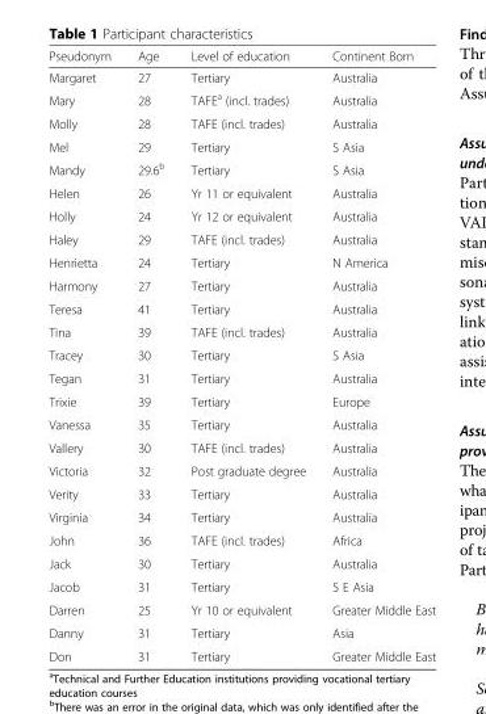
<table><thead><tr><td>Pseudonym</td><td>Age</td><td>Level of education</td><td>Continent Born</td></tr></thead><tbody><tr><td>Margaret</td><td>27</td><td>Tertiary</td><td>Australia</td></tr><tr><td>Mary</td><td>28</td><td>TAFE<sup>a</sup> (incl. trades)</td><td>Australia</td></tr><tr><td>Molly</td><td>28</td><td>TAFE (incl. trades)</td><td>Australia</td></tr><tr><td>Mel</td><td>29</td><td>Tertiary</td><td>S Asia</td></tr><tr><td>Mandy</td><td>29.6<sup>b</sup></td><td>Tertiary</td><td>S Asia</td></tr><tr><td>Helen</td><td>26</td><td>Yr 11 or equivalent</td><td>Australia</td></tr><tr><td>Holly</td><td>24</td><td>Yr 12 or equivalent</td><td>Australia</td></tr><tr><td>Haley</td><td>29</td><td>TAFE (incl. trades)</td><td>Australia</td></tr><tr><td>Henrietta</td><td>24</td><td>Tertiary</td><td>N America</td></tr><tr><td>Harmony</td><td>27</td><td>Tertiary</td><td>Australia</td></tr><tr><td>Teresa</td><td>41</td><td>Tertiary</td><td>Australia</td></tr><tr><td>Tina</td><td>39</td><td>TAFE (incl. trades)</td><td>Australia</td></tr><tr><td>Tracey</td><td>30</td><td>Tertiary</td><td>S Asia</td></tr><tr><td>Tegan</td><td>31</td><td>Tertiary</td><td>Australia</td></tr><tr><td>Trixie</td><td>39</td><td>Tertiary</td><td>Europe</td></tr><tr><td>Vanessa</td><td>35</td><td>Tertiary</td><td>Australia</td></tr><tr><td>Vallery</td><td>30</td><td>TAFE (incl. trades)</td><td>Australia</td></tr><tr><td>Victoria</td><td>32</td><td>Post graduate degree</td><td>Australia</td></tr><tr><td>Verity</td><td>33</td><td>Tertiary</td><td>Australia</td></tr><tr><td>Virginia</td><td>34</td><td>Tertiary</td><td>Australia</td></tr><tr><td>John</td><td>36</td><td>TAFE (incl. trades)</td><td>Africa</td></tr><tr><td>Jack</td><td>30</td><td>Tertiary</td><td>Australia</td></tr><tr><td>Jacob</td><td>31</td><td>Tertiary</td><td>S E Asia</td></tr><tr><td>Darren</td><td>25</td><td>Yr 10 or equivalent</td><td>Greater Middle East</td></tr><tr><td>Danny</td><td>31</td><td>Tertiary</td><td>Asia</td></tr><tr><td>Don</td><td>31</td><td>Tertiary</td><td>Greater Middle East</td></tr></tbody></table>